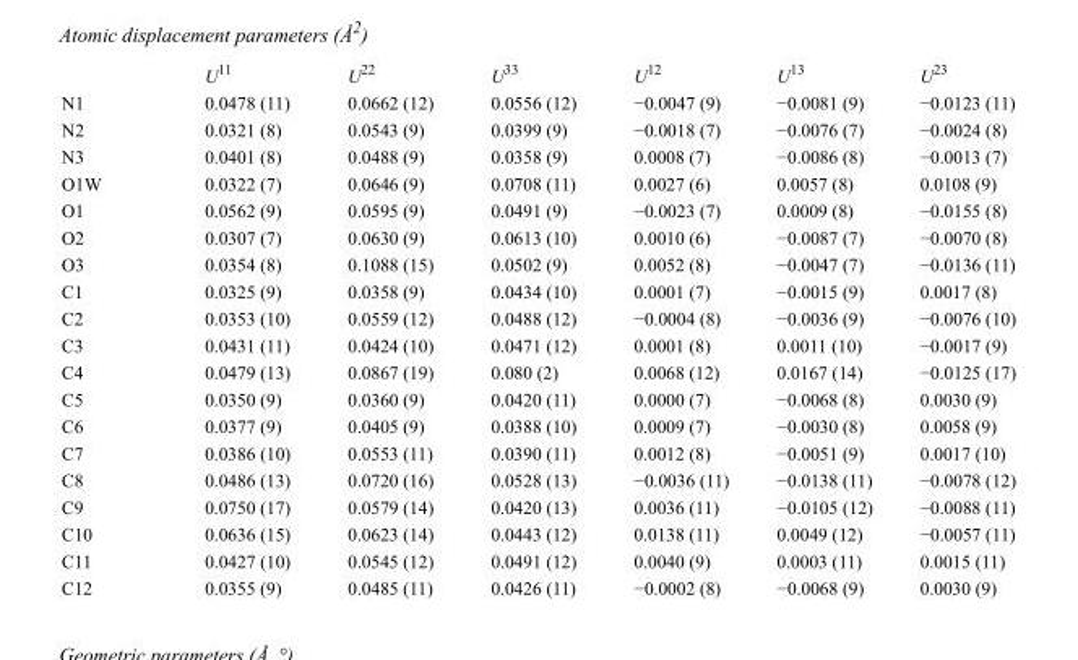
<table><thead><tr><td></td><td>U<sup>11</sup></td><td>U<sup>22</sup></td><td>U<sup>33</sup></td><td>U<sup>12</sup></td><td>U<sup>13</sup></td><td>U<sup>23</sup></td></tr></thead><tbody><tr><td>N1</td><td>0.0478 (11)</td><td>0.0662 (12)</td><td>0.0556 (12)</td><td>−0.0047 (9)</td><td>−0.0081 (9)</td><td>−0.0123 (11)</td></tr><tr><td>N2</td><td>0.0321 (8)</td><td>0.0543 (9)</td><td>0.0399 (9)</td><td>−0.0018 (7)</td><td>−0.0076 (7)</td><td>−0.0024 (8)</td></tr><tr><td>N3</td><td>0.0401 (8)</td><td>0.0488 (9)</td><td>0.0358 (9)</td><td>0.0008 (7)</td><td>−0.0086 (8)</td><td>−0.0013 (7)</td></tr><tr><td>O1W</td><td>0.0322 (7)</td><td>0.0646 (9)</td><td>0.0708 (11)</td><td>0.0027 (6)</td><td>0.0057 (8)</td><td>0.0108 (9)</td></tr><tr><td>O1</td><td>0.0562 (9)</td><td>0.0595 (9)</td><td>0.0491 (9)</td><td>−0.0023 (7)</td><td>0.0009 (8)</td><td>−0.0155 (8)</td></tr><tr><td>O2</td><td>0.0307 (7)</td><td>0.0630 (9)</td><td>0.0613 (10)</td><td>0.0010 (6)</td><td>−0.0087 (7)</td><td>−0.0070 (8)</td></tr><tr><td>O3</td><td>0.0354 (8)</td><td>0.1088 (15)</td><td>0.0502 (9)</td><td>0.0052 (8)</td><td>−0.0047 (7)</td><td>−0.0136 (11)</td></tr><tr><td>C1</td><td>0.0325 (9)</td><td>0.0358 (9)</td><td>0.0434 (10)</td><td>0.0001 (7)</td><td>−0.0015 (9)</td><td>0.0017 (8)</td></tr><tr><td>C2</td><td>0.0353 (10)</td><td>0.0559 (12)</td><td>0.0488 (12)</td><td>−0.0004 (8)</td><td>−0.0036 (9)</td><td>−0.0076 (10)</td></tr><tr><td>C3</td><td>0.0431 (11)</td><td>0.0424 (10)</td><td>0.0471 (12)</td><td>0.0001 (8)</td><td>0.0011 (10)</td><td>−0.0017 (9)</td></tr><tr><td>C4</td><td>0.0479 (13)</td><td>0.0867 (19)</td><td>0.080 (2)</td><td>0.0068 (12)</td><td>0.0167 (14)</td><td>−0.0125 (17)</td></tr><tr><td>C5</td><td>0.0350 (9)</td><td>0.0360 (9)</td><td>0.0420 (11)</td><td>0.0000 (7)</td><td>−0.0068 (8)</td><td>0.0030 (9)</td></tr><tr><td>C6</td><td>0.0377 (9)</td><td>0.0405 (9)</td><td>0.0388 (10)</td><td>0.0009 (7)</td><td>−0.0030 (8)</td><td>0.0058 (9)</td></tr><tr><td>C7</td><td>0.0386 (10)</td><td>0.0553 (11)</td><td>0.0390 (11)</td><td>0.0012 (8)</td><td>−0.0051 (9)</td><td>0.0017 (10)</td></tr><tr><td>C8</td><td>0.0486 (13)</td><td>0.0720 (16)</td><td>0.0528 (13)</td><td>−0.0036 (11)</td><td>−0.0138 (11)</td><td>−0.0078 (12)</td></tr><tr><td>C9</td><td>0.0750 (17)</td><td>0.0579 (14)</td><td>0.0420 (13)</td><td>0.0036 (11)</td><td>−0.0105 (12)</td><td>−0.0088 (11)</td></tr><tr><td>C10</td><td>0.0636 (15)</td><td>0.0623 (14)</td><td>0.0443 (12)</td><td>0.0138 (11)</td><td>0.0049 (12)</td><td>−0.0057 (11)</td></tr><tr><td>C11</td><td>0.0427 (10)</td><td>0.0545 (12)</td><td>0.0491 (12)</td><td>0.0040 (9)</td><td>0.0003 (11)</td><td>0.0015 (11)</td></tr><tr><td>C12</td><td>0.0355 (9)</td><td>0.0485 (11)</td><td>0.0426 (11)</td><td>−0.0002 (8)</td><td>−0.0068 (9)</td><td>0.0030 (9)</td></tr></tbody></table>